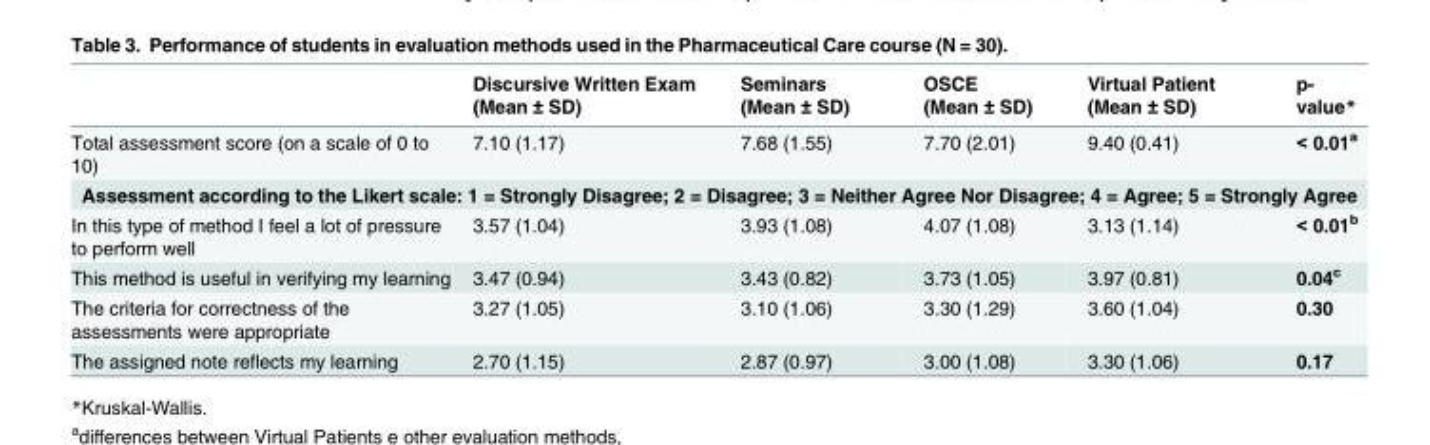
<table><thead><tr><td></td><td>Discursive Written Exam (Mean ± SD)</td><td>Seminars (Mean ± SD)</td><td>OSCE (Mean ± SD)</td><td>Virtual Patient (Mean ± SD)</td><td>p- value*</td></tr></thead><tbody><tr><td>Total assessment score (on a scale of 0 to 10)</td><td>7.10 (1.17)</td><td>7.68 (1.55)</td><td>7.70 (2.01)</td><td>9.40 (0.41)</td><td>&lt; 0.01<sup>a</sup></td></tr><tr><td colspan="6">Assessment according to the Likert scale: 1 = Strongly Disagree; 2 = Disagree; 3 = Neither Agree Nor Disagree; 4 = Agree; 5 = Strongly Agree</td></tr><tr><td>In this type of method I feel a lot of pressure to perform well</td><td>3.57 (1.04)</td><td>3.93 (1.08)</td><td>4.07 (1.08)</td><td>3.13 (1.14)</td><td>&lt; 0.01<sup>b</sup></td></tr><tr><td>This method is useful in verifying my learning</td><td>3.47 (0.94)</td><td>3.43 (0.82)</td><td>3.73 (1.05)</td><td>3.97 (0.81)</td><td>0.04<sup>c</sup></td></tr><tr><td>The criteria for correctness of the assessments were appropriate</td><td>3.27 (1.05)</td><td>3.10 (1.06)</td><td>3.30 (1.29)</td><td>3.60 (1.04)</td><td>0.30</td></tr><tr><td>The assigned note reflects my learning</td><td>2.70 (1.15)</td><td>2.87 (0.97)</td><td>3.00 (1.08)</td><td>3.30 (1.06)</td><td>0.17</td></tr></tbody></table>